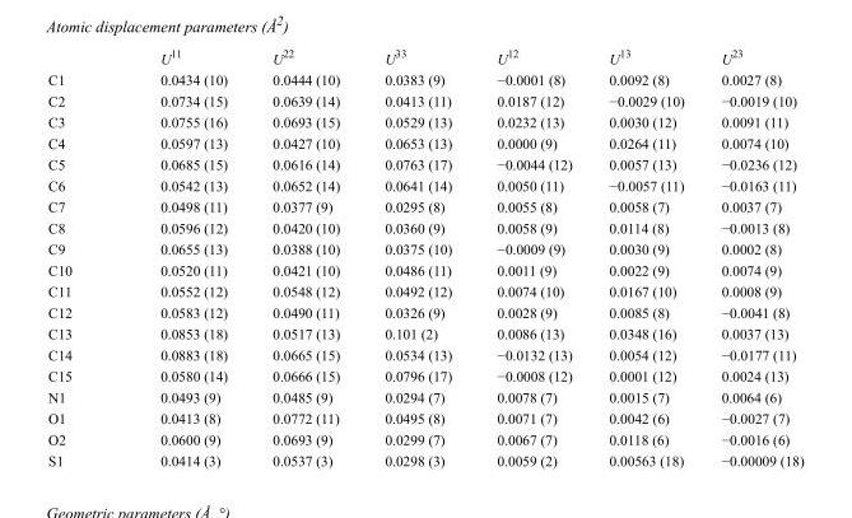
<table><thead><tr><td></td><td>U<sup>11</sup></td><td>U<sup>22</sup></td><td>U<sup>33</sup></td><td>U<sup>12</sup></td><td>U<sup>13</sup></td><td>U<sup>23</sup></td></tr></thead><tbody><tr><td>C1</td><td>0.0434 (10)</td><td>0.0444 (10)</td><td>0.0383 (9)</td><td>−0.0001 (8)</td><td>0.0092 (8)</td><td>0.0027 (8)</td></tr><tr><td>C2</td><td>0.0734 (15)</td><td>0.0639 (14)</td><td>0.0413 (11)</td><td>0.0187 (12)</td><td>−0.0029 (10)</td><td>−0.0019 (10)</td></tr><tr><td>C3</td><td>0.0755 (16)</td><td>0.0693 (15)</td><td>0.0529 (13)</td><td>0.0232 (13)</td><td>0.0030 (12)</td><td>0.0091 (11)</td></tr><tr><td>C4</td><td>0.0597 (13)</td><td>0.0427 (10)</td><td>0.0653 (13)</td><td>0.0000 (9)</td><td>0.0264 (11)</td><td>0.0074 (10)</td></tr><tr><td>C5</td><td>0.0685 (15)</td><td>0.0616 (14)</td><td>0.0763 (17)</td><td>−0.0044 (12)</td><td>0.0057 (13)</td><td>−0.0236 (12)</td></tr><tr><td>C6</td><td>0.0542 (13)</td><td>0.0652 (14)</td><td>0.0641 (14)</td><td>0.0050 (11)</td><td>−0.0057 (11)</td><td>−0.0163 (11)</td></tr><tr><td>C7</td><td>0.0498 (11)</td><td>0.0377 (9)</td><td>0.0295 (8)</td><td>0.0055 (8)</td><td>0.0058 (7)</td><td>0.0037 (7)</td></tr><tr><td>C8</td><td>0.0596 (12)</td><td>0.0420 (10)</td><td>0.0360 (9)</td><td>0.0058 (9)</td><td>0.0114 (8)</td><td>−0.0013 (8)</td></tr><tr><td>C9</td><td>0.0655 (13)</td><td>0.0388 (10)</td><td>0.0375 (10)</td><td>−0.0009 (9)</td><td>0.0030 (9)</td><td>0.0002 (8)</td></tr><tr><td>C10</td><td>0.0520 (11)</td><td>0.0421 (10)</td><td>0.0486 (11)</td><td>0.0011 (9)</td><td>0.0022 (9)</td><td>0.0074 (9)</td></tr><tr><td>C11</td><td>0.0552 (12)</td><td>0.0548 (12)</td><td>0.0492 (12)</td><td>0.0074 (10)</td><td>0.0167 (10)</td><td>0.0008 (9)</td></tr><tr><td>C12</td><td>0.0583 (12)</td><td>0.0490 (11)</td><td>0.0326 (9)</td><td>0.0028 (9)</td><td>0.0085 (8)</td><td>−0.0041 (8)</td></tr><tr><td>C13</td><td>0.0853 (18)</td><td>0.0517 (13)</td><td>0.101 (2)</td><td>0.0086 (13)</td><td>0.0348 (16)</td><td>0.0037 (13)</td></tr><tr><td>C14</td><td>0.0883 (18)</td><td>0.0665 (15)</td><td>0.0534 (13)</td><td>−0.0132 (13)</td><td>0.0054 (12)</td><td>−0.0177 (11)</td></tr><tr><td>C15</td><td>0.0580 (14)</td><td>0.0666 (15)</td><td>0.0796 (17)</td><td>−0.0008 (12)</td><td>0.0001 (12)</td><td>0.0024 (13)</td></tr><tr><td>N1</td><td>0.0493 (9)</td><td>0.0485 (9)</td><td>0.0294 (7)</td><td>0.0078 (7)</td><td>0.0015 (7)</td><td>0.0064 (6)</td></tr><tr><td>O1</td><td>0.0413 (8)</td><td>0.0772 (11)</td><td>0.0495 (8)</td><td>0.0071 (7)</td><td>0.0042 (6)</td><td>−0.0027 (7)</td></tr><tr><td>O2</td><td>0.0600 (9)</td><td>0.0693 (9)</td><td>0.0299 (7)</td><td>0.0067 (7)</td><td>0.0118 (6)</td><td>−0.0016 (6)</td></tr><tr><td>S1</td><td>0.0414 (3)</td><td>0.0537 (3)</td><td>0.0298 (3)</td><td>0.0059 (2)</td><td>0.00563 (18)</td><td>−0.00009 (18)</td></tr></tbody></table>